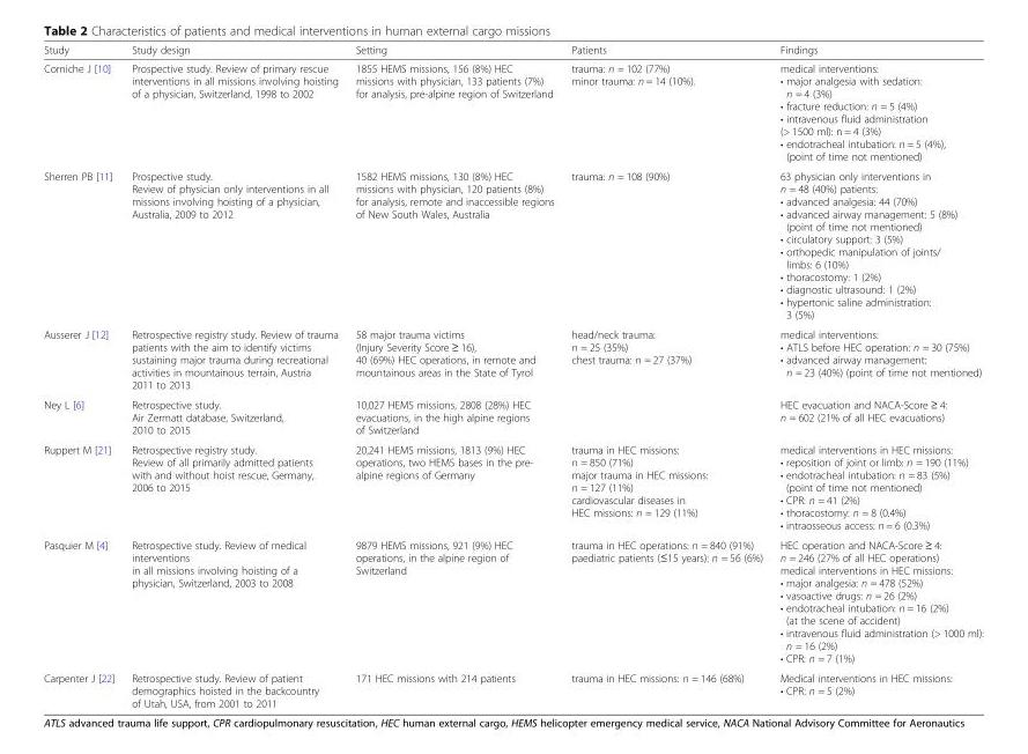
<table><thead><tr><td>Study</td><td>Study design</td><td>Setting</td><td>Patients</td><td>Findings</td></tr></thead><tbody><tr><td>Corniche J [10]</td><td>Prospective study. Review of primary rescue interventions in all missions involving hoisting of a physician, Switzerland, 1998 to 2002</td><td>1855 HEMS missions, 156 (8%) HEC missions with physician, 133 patients (7%) for analysis, pre-alpine region of Switzerland</td><td>trauma: n = 102 (77%) minor trauma: n = 14 (10%).</td><td>medical interventions: • major analgesia with sedation: n = 4 (3%) • fracture reduction: n = 5 (4%) • intravenous fluid administration (&gt; 1500 ml): n = 4 (3%) • endotracheal intubation: n = 5 (4%), (point of time not mentioned)</td></tr><tr><td>Sherren PB [11]</td><td>Prospective study. Review of physician only interventions in all missions involving hoisting of a physician, Australia, 2009 to 2012</td><td>1582 HEMS missions, 130 (8%) HEC missions with physician, 120 patients (8%) for analysis, remote and inaccessible regions of New South Wales, Australia</td><td>trauma: n = 108 (90%)</td><td>63 physician only interventions in n = 48 (40%) patients: • advanced analgesia: 44 (70%) • advanced airway management: 5 (8%) (point of time not mentioned) • circulatory support: 3 (5%) • orthopedic manipulation of joints/ limbs: 6 (10%) • thoracostomy: 1 (2%) • diagnostic ultrasound: 1 (2%) • hypertonic saline administration: 3 (5%)</td></tr><tr><td>Ausserer J [12]</td><td>Retrospective registry study. Review of trauma patients with the aim to identify victims sustaining major trauma during recreational activities in mountainous terrain, Austria 2011 to 2013</td><td>58 major trauma victims (Injury Severity Score ≥ 16), 40 (69%) HEC operations, in remote and mountainous areas in the State of Tyrol</td><td>head/neck trauma: n = 25 (35%) chest trauma: n = 27 (37%)</td><td>medical interventions: • ATLS before HEC operation: n = 30 (75%) • advanced airway management: n = 23 (40%) (point of time not mentioned)</td></tr><tr><td>Ney L [6]</td><td>Retrospective study. Air Zermatt database, Switzerland, 2010 to 2015</td><td>10,027 HEMS missions, 2808 (28%) HEC evacuations, in the high alpine regions of Switzerland</td><td></td><td>HEC evacuation and NACA-Score ≥ 4: n = 602 (21% of all HEC evacuations)</td></tr><tr><td>Ruppert M [21]</td><td>Retrospective registry study. Review of all primarily admitted patients with and without hoist rescue, Germany, 2006 to 2015</td><td>20,241 HEMS missions, 1813 (9%) HEC operations, two HEMS bases in the pre- alpine regions of Germany</td><td>trauma in HEC missions: n = 850 (71%) major trauma in HEC missions: n = 127 (11%) cardiovascular diseases in HEC missions: n = 129 (11%)</td><td>medical interventions in HEC missions: • reposition of joint or limb: n = 190 (11%) • endotracheal intubation: n = 83 (5%) (point of time not mentioned) • CPR: n = 41 (2%) • thoracostomy: n = 8 (0.4%) • intraosseous access: n = 6 (0.3%)</td></tr><tr><td>Pasquier M [4]</td><td>Retrospective study. Review of medical interventions in all missions involving hoisting of a physician, Switzerland, 2003 to 2008</td><td>9879 HEMS missions, 921 (9%) HEC operations, in the alpine region of Switzerland</td><td>trauma in HEC operations: n = 840 (91%) paediatric patients (≤15 years): n = 56 (6%)</td><td>HEC operation and NACA-Score ≥ 4: n = 246 (27% of all HEC operations) medical interventions in HEC missions: • major analgesia: n = 478 (52%) • vasoactive drugs: n = 26 (2%) • endotracheal intubation: n = 16 (2%) (at the scene of accident) • intravenous fluid administration (&gt; 1000 ml): n = 16 (2%) • CPR: n = 7 (1%)</td></tr><tr><td>Carpenter J [22]</td><td>Retrospective study. Review of patient demographics hoisted in the backcountry of Utah, USA, from 2001 to 2011</td><td>171 HEC missions with 214 patients</td><td>trauma in HEC missions: n = 146 (68%)</td><td>Medical interventions in HEC missions: • CPR: n = 5 (2%)</td></tr></tbody></table>